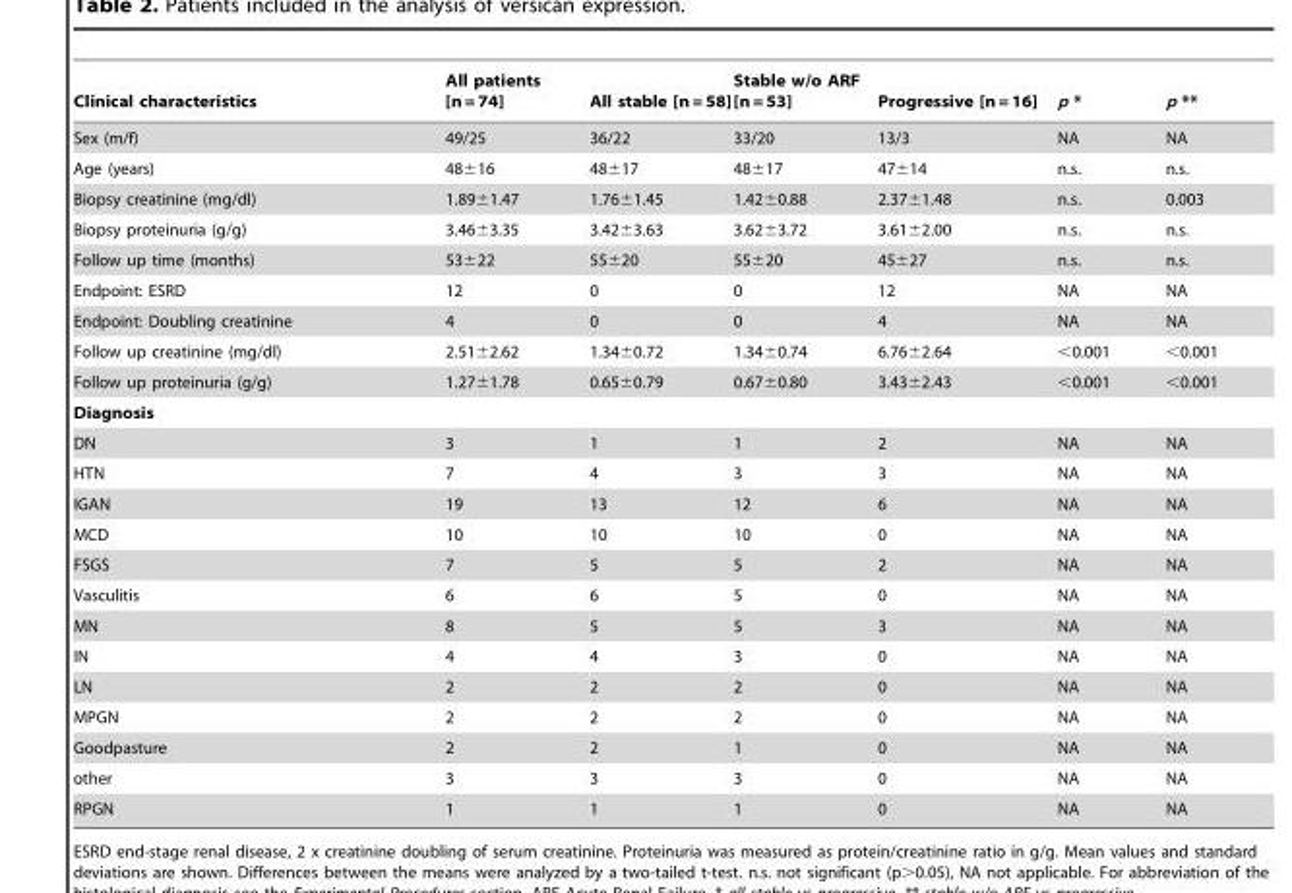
<table><thead><tr><td>Clinical characteristics</td><td>All patients [n = 74]</td><td>All stable [n = 58]</td><td>Stable w/o ARF [n = 53]</td><td>Progressive [n = 16]</td><td>p *</td><td>p **</td></tr></thead><tbody><tr><td>Sex (m/f)</td><td>49/25</td><td>36/22</td><td>33/20</td><td>13/3</td><td>NA</td><td>NA</td></tr><tr><td>Age (years)</td><td>48±16</td><td>48±17</td><td>48±17</td><td>47±14</td><td>n.s.</td><td>n.s.</td></tr><tr><td>Biopsy creatinine (mg/dl)</td><td>1.89±1.47</td><td>1.76±1.45</td><td>1.42±0.88</td><td>2.37±1.48</td><td>n.s.</td><td>0.003</td></tr><tr><td>Biopsy proteinuria (g/g)</td><td>3.46±3.35</td><td>3.42±3.63</td><td>3.62±3.72</td><td>3.61±2.00</td><td>n.s.</td><td>n.s.</td></tr><tr><td>Follow up time (months)</td><td>53±22</td><td>55±20</td><td>55±20</td><td>45±27</td><td>n.s.</td><td>n.s.</td></tr><tr><td>Endpoint: ESRD</td><td>12</td><td>0</td><td>0</td><td>12</td><td>NA</td><td>NA</td></tr><tr><td>Endpoint: Doubling creatinine</td><td>4</td><td>0</td><td>0</td><td>4</td><td>NA</td><td>NA</td></tr><tr><td>Follow up creatinine (mg/dl)</td><td>2.51±2.62</td><td>1.34±0.72</td><td>1.34±0.74</td><td>6.76±2.64</td><td>&lt;0.001</td><td>&lt;0.001</td></tr><tr><td>Follow up proteinuria (g/g)</td><td>1.27±1.78</td><td>0.65±0.79</td><td>0.67±0.80</td><td>3.43±2.43</td><td>&lt;0.001</td><td>&lt;0.001</td></tr><tr><td colspan="7">Diagnosis</td></tr><tr><td>DN</td><td>3</td><td>1</td><td>1</td><td>2</td><td>NA</td><td>NA</td></tr><tr><td>HTN</td><td>7</td><td>4</td><td>3</td><td>3</td><td>NA</td><td>NA</td></tr><tr><td>IGAN</td><td>19</td><td>13</td><td>12</td><td>6</td><td>NA</td><td>NA</td></tr><tr><td>MCD</td><td>10</td><td>10</td><td>10</td><td>0</td><td>NA</td><td>NA</td></tr><tr><td>FSGS</td><td>7</td><td>5</td><td>5</td><td>2</td><td>NA</td><td>NA</td></tr><tr><td>Vasculitis</td><td>6</td><td>6</td><td>5</td><td>0</td><td>NA</td><td>NA</td></tr><tr><td>MN</td><td>8</td><td>5</td><td>5</td><td>3</td><td>NA</td><td>NA</td></tr><tr><td>IN</td><td>4</td><td>4</td><td>3</td><td>0</td><td>NA</td><td>NA</td></tr><tr><td>LN</td><td>2</td><td>2</td><td>2</td><td>0</td><td>NA</td><td>NA</td></tr><tr><td>MPGN</td><td>2</td><td>2</td><td>2</td><td>0</td><td>NA</td><td>NA</td></tr><tr><td>Goodpasture</td><td>2</td><td>2</td><td>1</td><td>0</td><td>NA</td><td>NA</td></tr><tr><td>other</td><td>3</td><td>3</td><td>3</td><td>0</td><td>NA</td><td>NA</td></tr><tr><td>RPGN</td><td>1</td><td>1</td><td>1</td><td>0</td><td>NA</td><td>NA</td></tr></tbody></table>